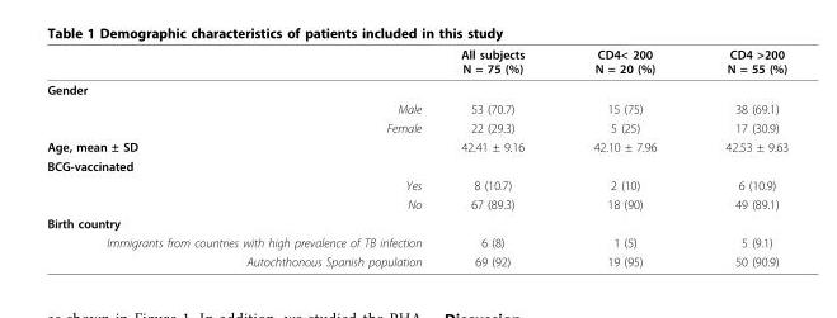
<table><thead><tr><td></td><td>All subjects N = 75 (%)</td><td>CD4&lt; 200 N = 20 (%)</td><td>CD4 &gt;200 N = 55 (%)</td></tr></thead><tbody><tr><td colspan="4">Gender</td></tr><tr><td>Male</td><td>53 (70.7)</td><td>15 (75)</td><td>38 (69.1)</td></tr><tr><td>Female</td><td>22 (29.3)</td><td>5 (25)</td><td>17 (30.9)</td></tr><tr><td>Age, mean ± SD</td><td>42.41 ± 9.16</td><td>42.10 ± 7.96</td><td>42.53 ± 9.63</td></tr><tr><td colspan="4">BCG-vaccinated</td></tr><tr><td>Yes</td><td>8 (10.7)</td><td>2 (10)</td><td>6 (10.9)</td></tr><tr><td>No</td><td>67 (89.3)</td><td>18 (90)</td><td>49 (89.1)</td></tr><tr><td colspan="4">Birth country</td></tr><tr><td>Immigrants from countries with high prevalence of TB infection</td><td>6 (8)</td><td>1 (5)</td><td>5 (9.1)</td></tr><tr><td>Autochthonous Spanish population</td><td>69 (92)</td><td>19 (95)</td><td>50 (90.9)</td></tr></tbody></table>